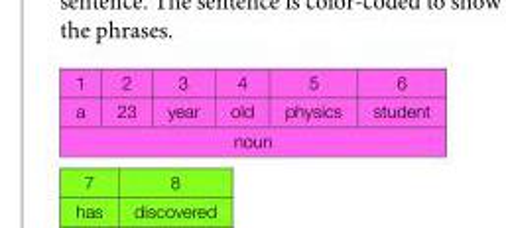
<table><tbody><tr><td>1</td><td>2</td><td>3</td><td>4</td><td>5</td><td>6</td></tr><tr><td>a</td><td>23</td><td>year</td><td>old</td><td>physics</td><td>student</td></tr><tr><td colspan="6">noun</td></tr></tbody></table>